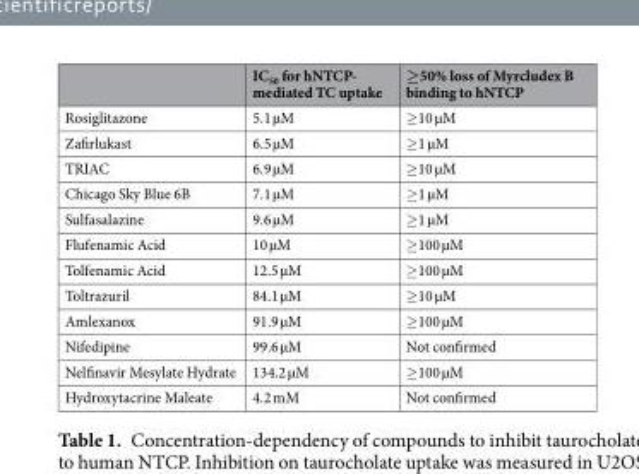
<table><thead><tr><td></td><td>IC<sub>50</sub> for hNTCP- mediated TC uptake</td><td>≥50% loss of Myrcludex B binding to hNTCP</td></tr></thead><tbody><tr><td>Rosiglitazone</td><td>5.1 µM</td><td>≥10 µM</td></tr><tr><td>Zafirlukast</td><td>6.5 µM</td><td>≥1 µM</td></tr><tr><td>TRIAC</td><td>6.9 µM</td><td>≥10 µM</td></tr><tr><td>Chicago Sky Blue 6B</td><td>7.1 µM</td><td>≥1 µM</td></tr><tr><td>Sulfasalazine</td><td>9.6 µM</td><td>≥1 µM</td></tr><tr><td>Flufenamic Acid</td><td>10 µM</td><td>≥100 µM</td></tr><tr><td>Tolfenamic Acid</td><td>12.5 µM</td><td>≥100 µM</td></tr><tr><td>Toltrazuril</td><td>84.1 µM</td><td>≥10 µM</td></tr><tr><td>Amlexanox</td><td>91.9 µM</td><td>≥100 µM</td></tr><tr><td>Nifedipine</td><td>99.6 µM</td><td>Not confirmed</td></tr><tr><td>Nelfinavir Mesylate Hydrate</td><td>134.2 µM</td><td>≥100 µM</td></tr><tr><td>Hydroxytacrine Maleate</td><td>4.2 mM</td><td>Not confirmed</td></tr></tbody></table>